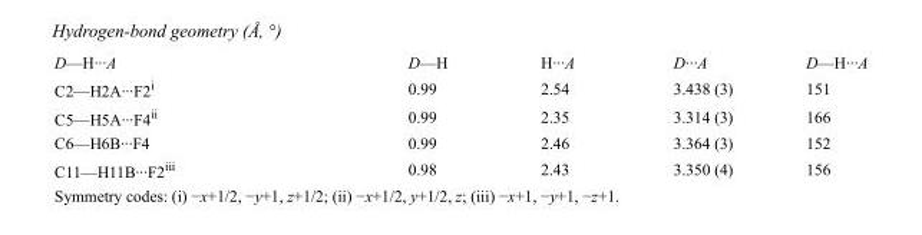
<table><tbody><tr><td>D—H···A</td><td>D—H</td><td>H···A</td><td>D···A</td><td>D—H···A</td></tr><tr><td>C2—H2A···F2<sup>i</sup></td><td>0.99</td><td>2.54</td><td>3.438 (3)</td><td>151</td></tr><tr><td>C5—H5A···F4<sup>ii</sup></td><td>0.99</td><td>2.35</td><td>3.314 (3)</td><td>166</td></tr><tr><td>C6—H6B···F4</td><td>0.99</td><td>2.46</td><td>3.364 (3)</td><td>152</td></tr><tr><td>C11—H11B···F2<sup>iii</sup></td><td>0.98</td><td>2.43</td><td>3.350 (4)</td><td>156</td></tr></tbody></table>